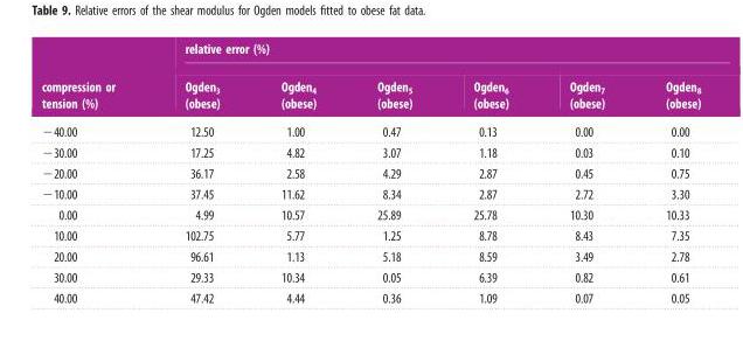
<table><thead><tr><td rowspan="2">compression or tension (%)</td><td colspan="6">relative error (%)</td></tr><tr><td>Ogden<sub>3</sub> (obese)</td><td>Ogden<sub>4</sub> (obese)</td><td>Ogden<sub>5</sub> (obese)</td><td>Ogden<sub>6</sub> (obese)</td><td>Ogden<sub>7</sub> (obese)</td><td>Ogden<sub>8</sub> (obese)</td></tr></thead><tbody><tr><td>−40.00</td><td>12.50</td><td>1.00</td><td>0.47</td><td>0.13</td><td>0.00</td><td>0.00</td></tr><tr><td>−30.00</td><td>17.25</td><td>4.82</td><td>3.07</td><td>1.18</td><td>0.03</td><td>0.10</td></tr><tr><td>−20.00</td><td>36.17</td><td>2.58</td><td>4.29</td><td>2.87</td><td>0.45</td><td>0.75</td></tr><tr><td>−10.00</td><td>37.45</td><td>11.62</td><td>8.34</td><td>2.87</td><td>2.72</td><td>3.30</td></tr><tr><td>0.00</td><td>4.99</td><td>10.57</td><td>25.89</td><td>25.78</td><td>10.30</td><td>10.33</td></tr><tr><td>10.00</td><td>102.75</td><td>5.77</td><td>1.25</td><td>8.78</td><td>8.43</td><td>7.35</td></tr><tr><td>20.00</td><td>96.61</td><td>1.13</td><td>5.18</td><td>8.59</td><td>3.49</td><td>2.78</td></tr><tr><td>30.00</td><td>29.33</td><td>10.34</td><td>0.05</td><td>6.39</td><td>0.82</td><td>0.61</td></tr><tr><td>40.00</td><td>47.42</td><td>4.44</td><td>0.36</td><td>1.09</td><td>0.07</td><td>0.05</td></tr></tbody></table>